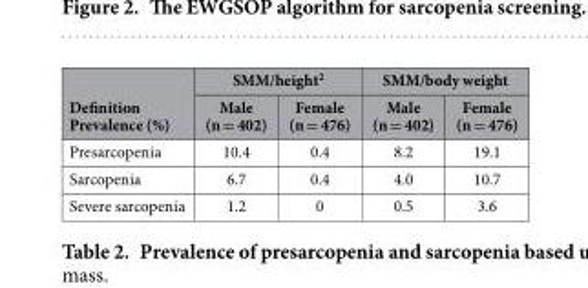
<table><thead><tr><td rowspan="2">Definition Prevalence (%)</td><td colspan="2">SMM/height<sup>2</sup></td><td colspan="2">SMM/body weight</td></tr><tr><td>Male (n = 402)</td><td>Female (n = 476)</td><td>Male (n = 402)</td><td>Female (n = 476)</td></tr></thead><tbody><tr><td>Presarcopenia</td><td>10.4</td><td>0.4</td><td>8.2</td><td>19.1</td></tr><tr><td>Sarcopenia</td><td>6.7</td><td>0.4</td><td>4.0</td><td>10.7</td></tr><tr><td>Severe sarcopenia</td><td>1.2</td><td>0</td><td>0.5</td><td>3.6</td></tr></tbody></table>